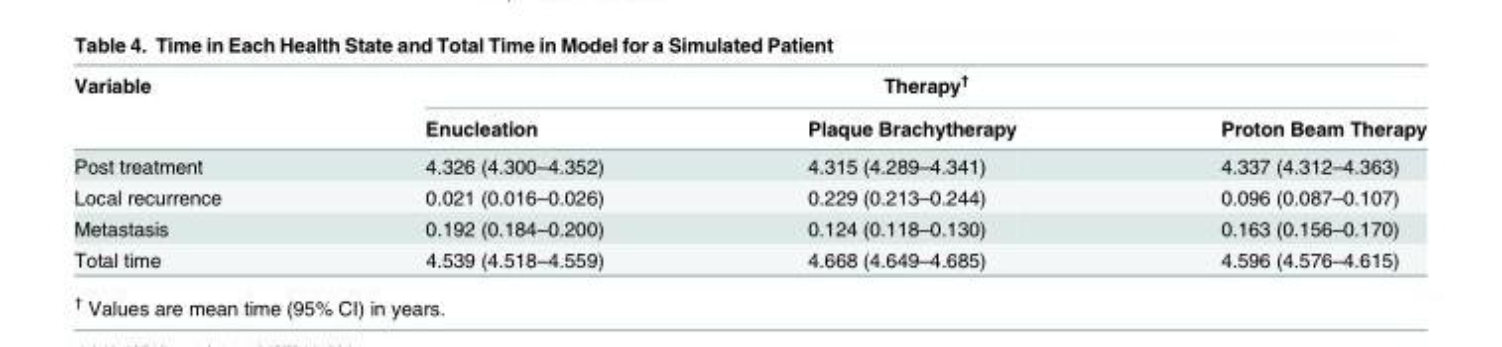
<table><thead><tr><td rowspan="2">Variable</td><td colspan="3">Therapy<sup>†</sup></td></tr><tr><td>Enucleation</td><td>Plaque Brachytherapy</td><td>Proton Beam Therapy</td></tr></thead><tbody><tr><td>Post treatment</td><td>4.326 (4.300–4.352)</td><td>4.315 (4.289–4.341)</td><td>4.337 (4.312–4.363)</td></tr><tr><td>Local recurrence</td><td>0.021 (0.016–0.026)</td><td>0.229 (0.213–0.244)</td><td>0.096 (0.087–0.107)</td></tr><tr><td>Metastasis</td><td>0.192 (0.184–0.200)</td><td>0.124 (0.118–0.130)</td><td>0.163 (0.156–0.170)</td></tr><tr><td>Total time</td><td>4.539 (4.518–4.559)</td><td>4.668 (4.649–4.685)</td><td>4.596 (4.576–4.615)</td></tr></tbody></table>